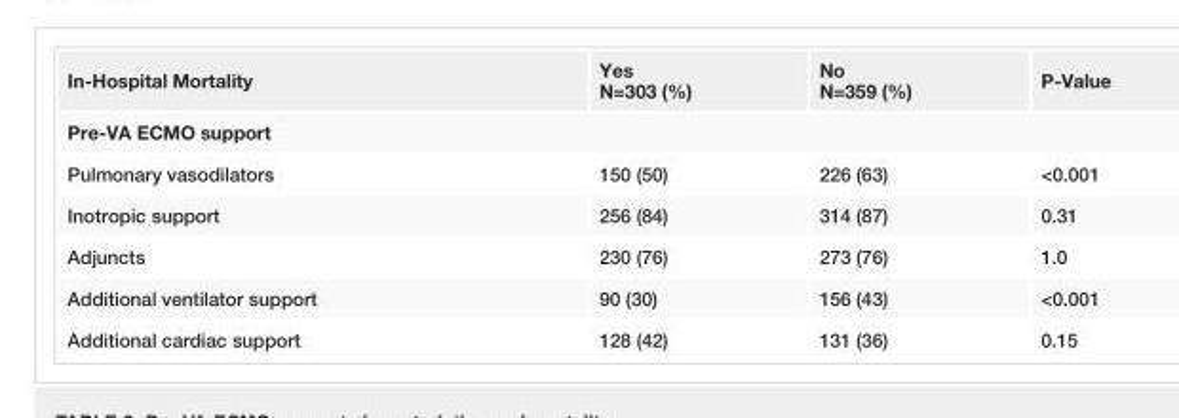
<table><tbody><tr><td>In-Hospital Mortality</td><td>Yes N=303 (%)</td><td>No N=359 (%)</td><td>P-Value</td></tr><tr><td colspan="4">Pre-VA ECMO support</td></tr><tr><td>Pulmonary vasodilators</td><td>150 (50)</td><td>226 (63)</td><td>&lt;0.001</td></tr><tr><td>Inotropic support</td><td>256 (84)</td><td>314 (87)</td><td>0.31</td></tr><tr><td>Adjuncts</td><td>230 (76)</td><td>273 (76)</td><td>1.0</td></tr><tr><td>Additional ventilator support</td><td>90 (30)</td><td>156 (43)</td><td>&lt;0.001</td></tr><tr><td>Additional cardiac support</td><td>128 (42)</td><td>131 (36)</td><td>0.15</td></tr></tbody></table>